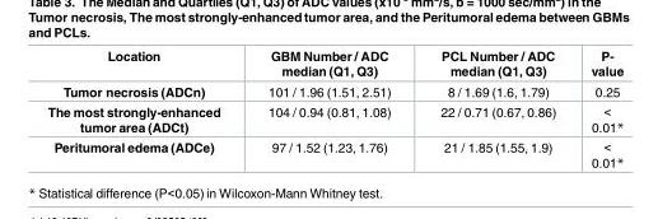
<table><thead><tr><td>Location</td><td>GBM Number / ADC median (Q1, Q3)</td><td>PCL Number / ADC median (Q1, Q3)</td><td>P- value</td></tr></thead><tbody><tr><td>Tumor necrosis (ADCn)</td><td>101 / 1.96 (1.51, 2.51)</td><td>8 / 1.69 (1.6, 1.79)</td><td>0.25</td></tr><tr><td>The most strongly-enhanced tumor area (ADCt)</td><td>104 / 0.94 (0.81, 1.08)</td><td>22 / 0.71 (0.67, 0.86)</td><td>&lt; 0.01*</td></tr><tr><td>Peritumoral edema (ADCe)</td><td>97 / 1.52 (1.23, 1.76)</td><td>21 / 1.85 (1.55, 1.9)</td><td>&lt; 0.01*</td></tr></tbody></table>